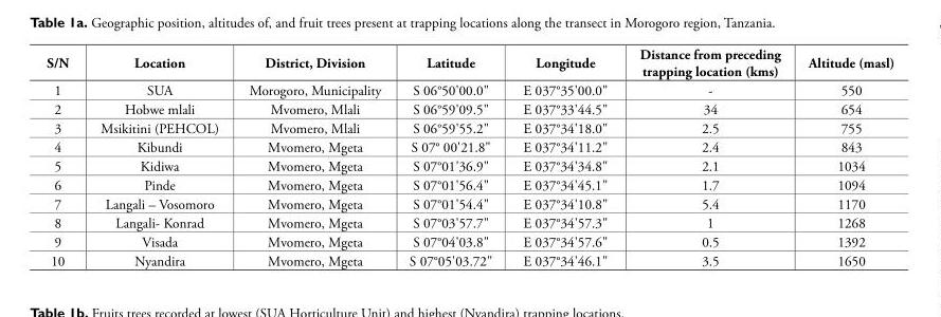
<table><thead><tr><td>S/N</td><td>Location</td><td>District, Division</td><td>Latitude</td><td>Longitude</td><td>Distance from preceding trapping location (kms)</td><td>Altitude (masl)</td></tr></thead><tbody><tr><td>1</td><td>SUA</td><td>Morogoro, Municipality</td><td>S 06°50&#x27;00.0&quot;</td><td>E 037°35&#x27;00.0&quot;</td><td>-</td><td>550</td></tr><tr><td>2</td><td>Hobwe mlali</td><td>Mvomero, Mlali</td><td>S 06°59&#x27;09.5&quot;</td><td>E 037°33&#x27;44.5&quot;</td><td>34</td><td>654</td></tr><tr><td>3</td><td>Msikitini (PEHCOL)</td><td>Mvomero, Mlali</td><td>S 06°59&#x27;55.2&quot;</td><td>E 037°34&#x27;18.0&quot;</td><td>2.5</td><td>755</td></tr><tr><td>4</td><td>Kibundi</td><td>Mvomero, Mgeta</td><td>S 07° 00&#x27;21.8&quot;</td><td>E 037°34&#x27;11.2&quot;</td><td>2.4</td><td>843</td></tr><tr><td>5</td><td>Kidiwa</td><td>Mvomero, Mgeta</td><td>S 07°01&#x27;36.9&quot;</td><td>E 037°34&#x27;34.8&quot;</td><td>2.1</td><td>1034</td></tr><tr><td>6</td><td>Pinde</td><td>Mvomero, Mgeta</td><td>S 07°01&#x27;56.4&quot;</td><td>E 037°34&#x27;45.1&quot;</td><td>1.7</td><td>1094</td></tr><tr><td>7</td><td>Langali – Vosomoro</td><td>Mvomero, Mgeta</td><td>S 07°01&#x27;54.4&quot;</td><td>E 037°34&#x27;10.8&quot;</td><td>5.4</td><td>1170</td></tr><tr><td>8</td><td>Langali- Konrad</td><td>Mvomero, Mgeta</td><td>S 07°03&#x27;57.7&quot;</td><td>E 037°34&#x27;57.3&quot;</td><td>1</td><td>1268</td></tr><tr><td>9</td><td>Visada</td><td>Mvomero, Mgeta</td><td>S 07°04&#x27;03.8&quot;</td><td>E 037°34&#x27;57.6&quot;</td><td>0.5</td><td>1392</td></tr><tr><td>10</td><td>Nyandira</td><td>Mvomero, Mgeta</td><td>S 07°05&#x27;03.72&quot;</td><td>E 037°34&#x27;46.1&quot;</td><td>3.5</td><td>1650</td></tr></tbody></table>